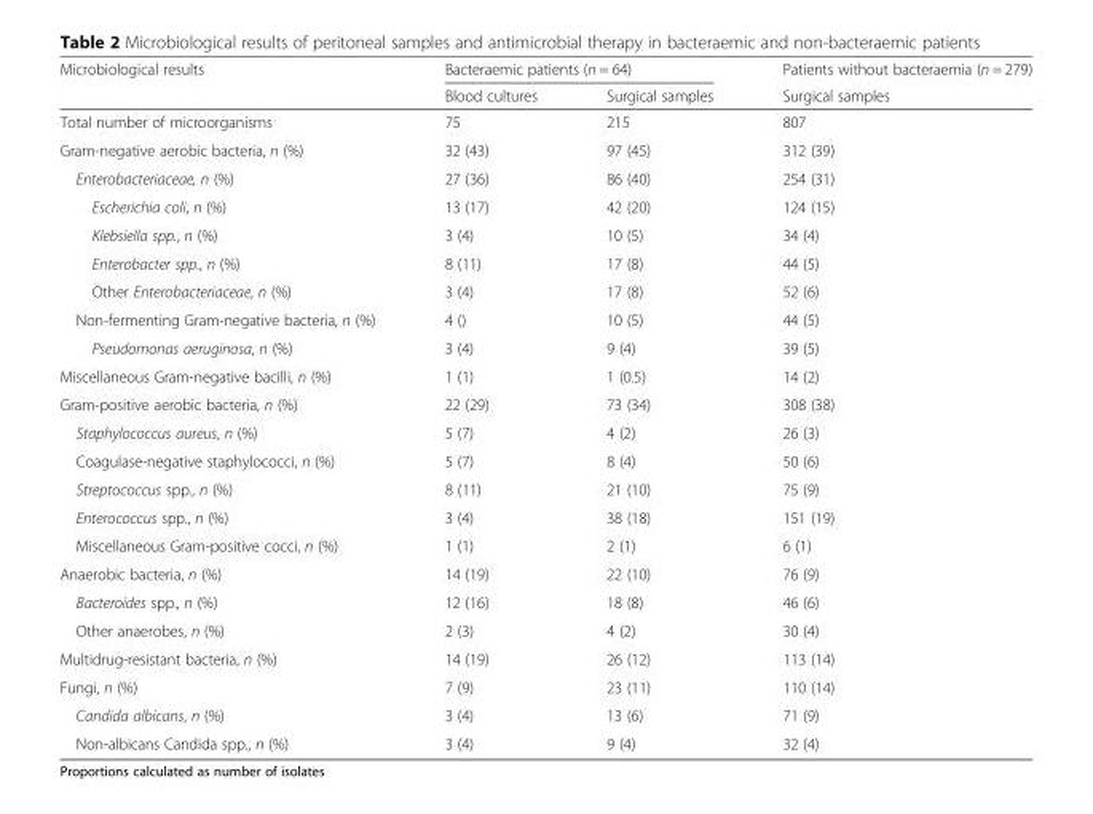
<table><thead><tr><td rowspan="2">Microbiological results</td><td colspan="2">Bacteraemic patients (n = 64)</td><td rowspan="2">Patients without bacteraemia (n = 279) Surgical samples</td></tr><tr><td>Blood cultures</td><td>Surgical samples</td></tr></thead><tbody><tr><td>Total number of microorganisms</td><td>75</td><td>215</td><td>807</td></tr><tr><td>Gram-negative aerobic bacteria, n (%)</td><td>32 (43)</td><td>97 (45)</td><td>312 (39)</td></tr><tr><td>Enterobacteriaceae, n (%)</td><td>27 (36)</td><td>86 (40)</td><td>254 (31)</td></tr><tr><td>Escherichia coli, n (%)</td><td>13 (17)</td><td>42 (20)</td><td>124 (15)</td></tr><tr><td>Klebsiella spp., n (%)</td><td>3 (4)</td><td>10 (5)</td><td>34 (4)</td></tr><tr><td>Enterobacter spp., n (%)</td><td>8 (11)</td><td>17 (8)</td><td>44 (5)</td></tr><tr><td>Other Enterobacteriaceae, n (%)</td><td>3 (4)</td><td>17 (8)</td><td>52 (6)</td></tr><tr><td>Non-fermenting Gram-negative bacteria, n (%)</td><td>4 ()</td><td>10 (5)</td><td>44 (5)</td></tr><tr><td>Pseudomonas aeruginosa, n (%)</td><td>3 (4)</td><td>9 (4)</td><td>39 (5)</td></tr><tr><td>Miscellaneous Gram-negative bacilli, n (%)</td><td>1 (1)</td><td>1 (0.5)</td><td>14 (2)</td></tr><tr><td>Gram-positive aerobic bacteria, n (%)</td><td>22 (29)</td><td>73 (34)</td><td>308 (38)</td></tr><tr><td>Staphylococcus aureus, n (%)</td><td>5 (7)</td><td>4 (2)</td><td>26 (3)</td></tr><tr><td>Coagulase-negative staphylococci, n (%)</td><td>5 (7)</td><td>8 (4)</td><td>50 (6)</td></tr><tr><td>Streptococcus spp., n (%)</td><td>8 (11)</td><td>21 (10)</td><td>75 (9)</td></tr><tr><td>Enterococcus spp., n (%)</td><td>3 (4)</td><td>38 (18)</td><td>151 (19)</td></tr><tr><td>Miscellaneous Gram-positive cocci, n (%)</td><td>1 (1)</td><td>2 (1)</td><td>6 (1)</td></tr><tr><td>Anaerobic bacteria, n (%)</td><td>14 (19)</td><td>22 (10)</td><td>76 (9)</td></tr><tr><td>Bacteroides spp., n (%)</td><td>12 (16)</td><td>18 (8)</td><td>46 (6)</td></tr><tr><td>Other anaerobes, n (%)</td><td>2 (3)</td><td>4 (2)</td><td>30 (4)</td></tr><tr><td>Multidrug-resistant bacteria, n (%)</td><td>14 (19)</td><td>26 (12)</td><td>113 (14)</td></tr><tr><td>Fungi, n (%)</td><td>7 (9)</td><td>23 (11)</td><td>110 (14)</td></tr><tr><td>Candida albicans, n (%)</td><td>3 (4)</td><td>13 (6)</td><td>71 (9)</td></tr><tr><td>Non-albicans Candida spp., n (%)</td><td>3 (4)</td><td>9 (4)</td><td>32 (4)</td></tr></tbody></table>